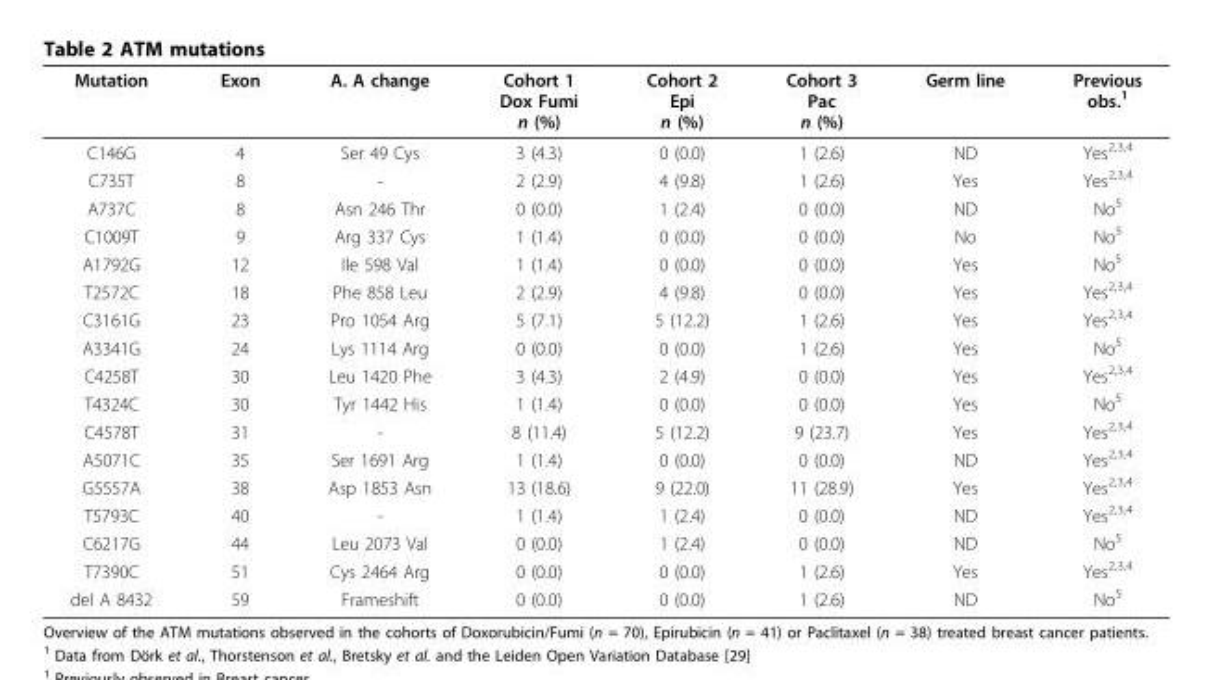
<table><thead><tr><td>Mutation</td><td>Exon</td><td>A. A change</td><td>Cohort 1 Dox Fumi n (%)</td><td>Cohort 2 Epi n (%)</td><td>Cohort 3 Pac n (%)</td><td>Germ line</td><td>Previous obs.<sup>1</sup></td></tr></thead><tbody><tr><td>C146G</td><td>4</td><td>Ser 49 Cys</td><td>3 (4.3)</td><td>0 (0.0)</td><td>1 (2.6)</td><td>ND</td><td>Yes<sup>2,3,4</sup></td></tr><tr><td>C735T</td><td>8</td><td>-</td><td>2 (2.9)</td><td>4 (9.8)</td><td>1 (2.6)</td><td>Yes</td><td>Yes<sup>2,3,4</sup></td></tr><tr><td>A737C</td><td>8</td><td>Asn 246 Thr</td><td>0 (0.0)</td><td>1 (2.4)</td><td>0 (0.0)</td><td>ND</td><td>No<sup>5</sup></td></tr><tr><td>C1009T</td><td>9</td><td>Arg 337 Cys</td><td>1 (1.4)</td><td>0 (0.0)</td><td>0 (0.0)</td><td>No</td><td>No<sup>5</sup></td></tr><tr><td>A1792G</td><td>12</td><td>Ile 598 Val</td><td>1 (1.4)</td><td>0 (0.0)</td><td>0 (0.0)</td><td>Yes</td><td>No<sup>5</sup></td></tr><tr><td>T2572C</td><td>18</td><td>Phe 858 Leu</td><td>2 (2.9)</td><td>4 (9.8)</td><td>0 (0.0)</td><td>Yes</td><td>Yes<sup>2,3,4</sup></td></tr><tr><td>C3161G</td><td>23</td><td>Pro 1054 Arg</td><td>5 (7.1)</td><td>5 (12.2)</td><td>1 (2.6)</td><td>Yes</td><td>Yes<sup>2,3,4</sup></td></tr><tr><td>A3341G</td><td>24</td><td>Lys 1114 Arg</td><td>0 (0.0)</td><td>0 (0.0)</td><td>1 (2.6)</td><td>Yes</td><td>No<sup>5</sup></td></tr><tr><td>C4258T</td><td>30</td><td>Leu 1420 Phe</td><td>3 (4.3)</td><td>2 (4.9)</td><td>0 (0.0)</td><td>Yes</td><td>Yes<sup>2,3,4</sup></td></tr><tr><td>T4324C</td><td>30</td><td>Tyr 1442 His</td><td>1 (1.4)</td><td>0 (0.0)</td><td>0 (0.0)</td><td>Yes</td><td>No<sup>5</sup></td></tr><tr><td>C4578T</td><td>31</td><td>-</td><td>8 (11.4)</td><td>5 (12.2)</td><td>9 (23.7)</td><td>Yes</td><td>Yes<sup>2,3,4</sup></td></tr><tr><td>A5071C</td><td>35</td><td>Ser 1691 Arg</td><td>1 (1.4)</td><td>0 (0.0)</td><td>0 (0.0)</td><td>ND</td><td>Yes<sup>2,3,4</sup></td></tr><tr><td>G5557A</td><td>38</td><td>Asp 1853 Asn</td><td>13 (18.6)</td><td>9 (22.0)</td><td>11 (28.9)</td><td>Yes</td><td>Yes<sup>2,3,4</sup></td></tr><tr><td>T5793C</td><td>40</td><td>-</td><td>1 (1.4)</td><td>1 (2.4)</td><td>0 (0.0)</td><td>ND</td><td>Yes<sup>2,3,4</sup></td></tr><tr><td>C6217G</td><td>44</td><td>Leu 2073 Val</td><td>0 (0.0)</td><td>1 (2.4)</td><td>0 (0.0)</td><td>ND</td><td>No<sup>5</sup></td></tr><tr><td>T7390C</td><td>51</td><td>Cys 2464 Arg</td><td>0 (0.0)</td><td>0 (0.0)</td><td>1 (2.6)</td><td>Yes</td><td>Yes<sup>2,3,4</sup></td></tr><tr><td>del A 8432</td><td>59</td><td>Frameshift</td><td>0 (0.0)</td><td>0 (0.0)</td><td>1 (2.6)</td><td>ND</td><td>No<sup>5</sup></td></tr></tbody></table>